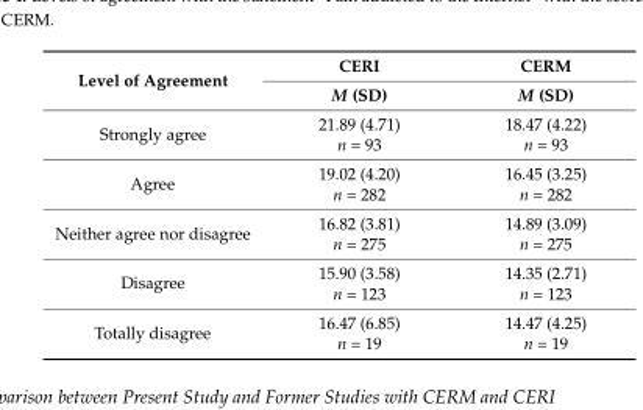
<table><thead><tr><td rowspan="2">Level of Agreement</td><td rowspan="2">CERI M (SD)</td><td rowspan="2">CERM M (SD)</td></tr><tr></tr></thead><tbody><tr><td rowspan="2">Strongly agree</td><td>21.89 (4.71)</td><td>18.47 (4.22)</td></tr><tr><td>n = 93</td><td>n = 93</td></tr><tr><td rowspan="2">Agree</td><td>19.02 (4.20)</td><td>16.45 (3.25)</td></tr><tr><td>n = 282</td><td>n = 282</td></tr><tr><td rowspan="2">Neither agree nor disagree</td><td>16.82 (3.81)</td><td>14.89 (3.09)</td></tr><tr><td>n = 275</td><td>n = 275</td></tr><tr><td rowspan="2">Disagree</td><td>15.90 (3.58)</td><td>14.35 (2.71)</td></tr><tr><td>n = 123</td><td>n = 123</td></tr><tr><td rowspan="2">Totally disagree</td><td>16.47 (6.85)</td><td>14.47 (4.25)</td></tr><tr><td>n = 19</td><td>n = 19</td></tr></tbody></table>